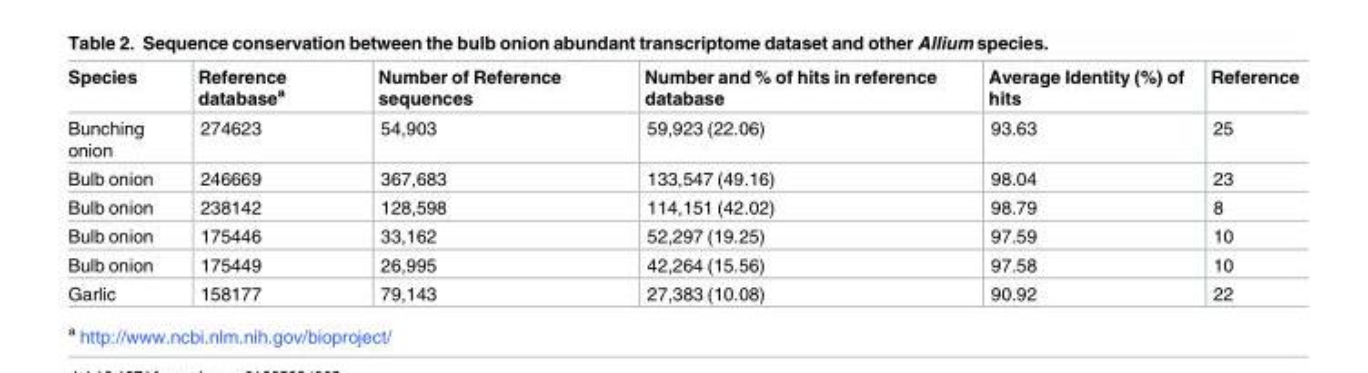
<table><thead><tr><td>Species</td><td>Reference database<sup>a</sup></td><td>Number of Reference sequences</td><td>Number and % of hits in reference database</td><td>Average Identity (%) of hits</td><td>Reference</td></tr></thead><tbody><tr><td>Bunching onion</td><td>274623</td><td>54,903</td><td>59,923 (22.06)</td><td>93.63</td><td>25</td></tr><tr><td>Bulb onion</td><td>246669</td><td>367,683</td><td>133,547 (49.16)</td><td>98.04</td><td>23</td></tr><tr><td>Bulb onion</td><td>238142</td><td>128,598</td><td>114,151 (42.02)</td><td>98.79</td><td>8</td></tr><tr><td>Bulb onion</td><td>175446</td><td>33,162</td><td>52,297 (19.25)</td><td>97.59</td><td>10</td></tr><tr><td>Bulb onion</td><td>175449</td><td>26,995</td><td>42,264 (15.56)</td><td>97.58</td><td>10</td></tr><tr><td>Garlic</td><td>158177</td><td>79,143</td><td>27,383 (10.08)</td><td>90.92</td><td>22</td></tr></tbody></table>